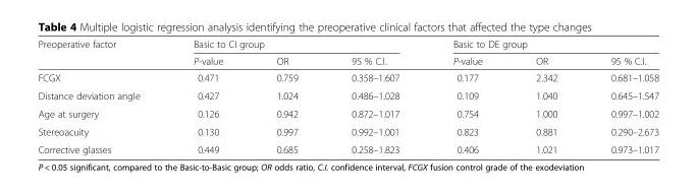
<table><thead><tr><td rowspan="2">Preoperative factor</td><td colspan="3">Basic to CI group</td><td colspan="3">Basic to DE group</td></tr><tr><td>P-value</td><td>OR</td><td>95 % C.I.</td><td>P-value</td><td>OR</td><td>95 % C.I.</td></tr></thead><tbody><tr><td>FCGX</td><td>0.471</td><td>0.759</td><td>0.358–1.607</td><td>0.177</td><td>2.342</td><td>0.681–1.058</td></tr><tr><td>Distance deviation angle</td><td>0.427</td><td>1.024</td><td>0.486–1.028</td><td>0.109</td><td>1.040</td><td>0.645–1.547</td></tr><tr><td>Age at surgery</td><td>0.126</td><td>0.942</td><td>0.872–1.017</td><td>0.754</td><td>1.000</td><td>0.997–1.002</td></tr><tr><td>Stereoacuity</td><td>0.130</td><td>0.997</td><td>0.992–1.001</td><td>0.823</td><td>0.881</td><td>0.290–2.673</td></tr><tr><td>Corrective glasses</td><td>0.449</td><td>0.685</td><td>0.258–1.823</td><td>0.406</td><td>1.021</td><td>0.973–1.017</td></tr></tbody></table>